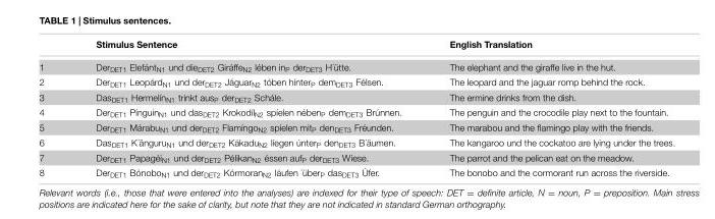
<table><thead><tr><td></td><td>Stimulus Sentence</td><td>English Translation</td></tr></thead><tbody><tr><td>1</td><td>Der<sub>DET1</sub> Elefánt<sub>N1</sub> und die<sub>DET2</sub> Giráffe<sub>N2</sub> lében in<sub>P</sub> der<sub>DET3</sub> H´ütte.</td><td>The elephant and the giraffe live in the hut.</td></tr><tr><td>2</td><td>Der<sub>DET1</sub> Leopárd<sub>N1</sub> und der<sub>DET2</sub> Jáguar<sub>N2</sub> tóben hínter<sub>P</sub> dem<sub>DET3</sub> Félsen.</td><td>The leopard and the jaguar romp behind the rock.</td></tr><tr><td>3</td><td>Das<sub>DET1</sub> Hermelín<sub>N1</sub> trinkt aus<sub>P</sub> der<sub>DET2</sub> Schále.</td><td>The ermine drinks from the dish.</td></tr><tr><td>4</td><td>Der<sub>DET1</sub> Pínguin<sub>N1</sub> und das<sub>DET2</sub> Krokodíl<sub>N2</sub> spíelen nében<sub>P</sub> dem<sub>DET3</sub> Brúnnen.</td><td>The penguin and the crocodile play next to the fountain.</td></tr><tr><td>5</td><td>Der<sub>DET1</sub> Márabu<sub>N1</sub> und der<sub>DET2</sub> Flamíngo<sub>N2</sub> spíelen mit<sub>P</sub> den<sub>DET3</sub> Fréunden.</td><td>The marabou and the flamingo play with the friends.</td></tr><tr><td>6</td><td>Das<sub>DET1</sub> K´änguru<sub>N1</sub> und der<sub>DET2</sub> Kákadu<sub>N2</sub> líegen únter<sub>P</sub> den<sub>DET3</sub> B´äumen.</td><td>The kangaroo und the cockatoo are lying under the trees.</td></tr><tr><td>7</td><td>Der<sub>DET1</sub> Papagéi<sub>N1</sub> und der<sub>DET2</sub> Pélikan<sub>N2</sub> éssen auf<sub>P</sub> der<sub>DET3</sub> Wíese.</td><td>The parrot and the pelican eat on the meadow.</td></tr><tr><td>8</td><td>Der<sub>DET1</sub> Bónobo<sub>N1</sub> und der<sub>DET2</sub> Kórmoran<sub>N2</sub> láufen ´über<sub>P</sub> das<sub>DET3</sub> Úfer.</td><td>The bonobo and the cormorant run across the riverside.</td></tr></tbody></table>